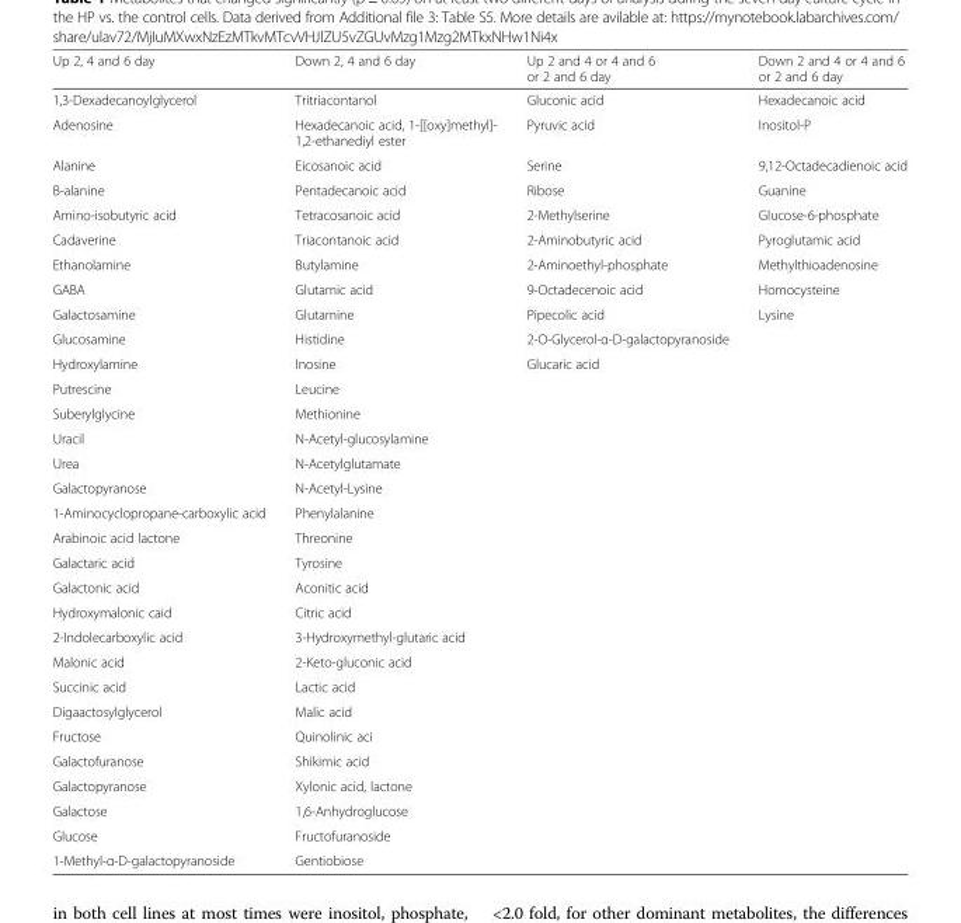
<table><thead><tr><td>Up 2, 4 and 6 day</td><td>Down 2, 4 and 6 day</td><td>Up 2 and 4 or 4 and 6 or 2 and 6 day</td><td>Down 2 and 4 or 4 and 6 or 2 and 6 day</td></tr></thead><tbody><tr><td>1,3-Dexadecanoylglycerol</td><td>Tritriacontanol</td><td>Gluconic acid</td><td>Hexadecanoic acid</td></tr><tr><td>Adenosine</td><td>Hexadecanoic acid, 1-[[oxy]methyl]- 1,2-ethanediyl ester</td><td>Pyruvic acid</td><td>Inositol-P</td></tr><tr><td>Alanine</td><td>Eicosanoic acid</td><td>Serine</td><td>9,12-Octadecadienoic acid</td></tr><tr><td>B-alanine</td><td>Pentadecanoic acid</td><td>Ribose</td><td>Guanine</td></tr><tr><td>Amino-isobutyric acid</td><td>Tetracosanoic acid</td><td>2-Methylserine</td><td>Glucose-6-phosphate</td></tr><tr><td>Cadaverine</td><td>Triacontanoic acid</td><td>2-Aminobutyric acid</td><td>Pyroglutamic acid</td></tr><tr><td>Ethanolamine</td><td>Butylamine</td><td>2-Aminoethyl-phosphate</td><td>Methylthioadenosine</td></tr><tr><td>GABA</td><td>Glutamic acid</td><td>9-Octadecenoic acid</td><td>Homocysteine</td></tr><tr><td>Galactosamine</td><td>Glutamine</td><td>Pipecolic acid</td><td>Lysine</td></tr><tr><td>Glucosamine</td><td>Histidine</td><td>2-O-Glycerol-α-D-galactopyranoside</td><td></td></tr><tr><td>Hydroxylamine</td><td>Inosine</td><td>Glucaric acid</td><td></td></tr><tr><td>Putrescine</td><td>Leucine</td><td></td><td></td></tr><tr><td>Suberylglycine</td><td>Methionine</td><td></td><td></td></tr><tr><td>Uracil</td><td>N-Acetyl-glucosylamine</td><td></td><td></td></tr><tr><td>Urea</td><td>N-Acetylglutamate</td><td></td><td></td></tr><tr><td>Galactopyranose</td><td>N-Acetyl-Lysine</td><td></td><td></td></tr><tr><td>1-Aminocyclopropane-carboxylic acid</td><td>Phenylalanine</td><td></td><td></td></tr><tr><td>Arabinoic acid lactone</td><td>Threonine</td><td></td><td></td></tr><tr><td>Galactaric acid</td><td>Tyrosine</td><td></td><td></td></tr><tr><td>Galactonic acid</td><td>Aconitic acid</td><td></td><td></td></tr><tr><td>Hydroxymalonic caid</td><td>Citric acid</td><td></td><td></td></tr><tr><td>2-Indolecarboxylic acid</td><td>3-Hydroxymethyl-glutaric acid</td><td></td><td></td></tr><tr><td>Malonic acid</td><td>2-Keto-gluconic acid</td><td></td><td></td></tr><tr><td>Succinic acid</td><td>Lactic acid</td><td></td><td></td></tr><tr><td>Digaactosylglycerol</td><td>Malic acid</td><td></td><td></td></tr><tr><td>Fructose</td><td>Quinolinic aci</td><td></td><td></td></tr><tr><td>Galactofuranose</td><td>Shikimic acid</td><td></td><td></td></tr><tr><td>Galactopyranose</td><td>Xylonic acid, lactone</td><td></td><td></td></tr><tr><td>Galactose</td><td>1,6-Anhydroglucose</td><td></td><td></td></tr><tr><td>Glucose</td><td>Fructofuranoside</td><td></td><td></td></tr><tr><td>1-Methyl-α-D-galactopyranoside</td><td>Gentiobiose</td><td></td><td></td></tr></tbody></table>